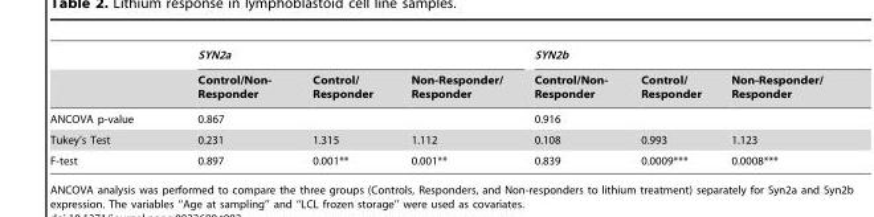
<table><thead><tr><td rowspan="2"></td><td colspan="3">SYN2a</td><td colspan="3">SYN2b</td></tr><tr><td>Control/Non- Responder</td><td>Control/ Responder</td><td>Non-Responder/ Responder</td><td>Control/Non- Responder</td><td>Control/ Responder</td><td>Non-Responder/ Responder</td></tr></thead><tbody><tr><td>ANCOVA p-value</td><td colspan="3">0.867</td><td colspan="3">0.916</td></tr><tr><td>Tukey’s Test</td><td>0.231</td><td>1.315</td><td>1.112</td><td>0.108</td><td>0.993</td><td>1.123</td></tr><tr><td>F-test</td><td>0.897</td><td>0.001**</td><td>0.001**</td><td>0.839</td><td>0.0009***</td><td>0.0008***</td></tr></tbody></table>